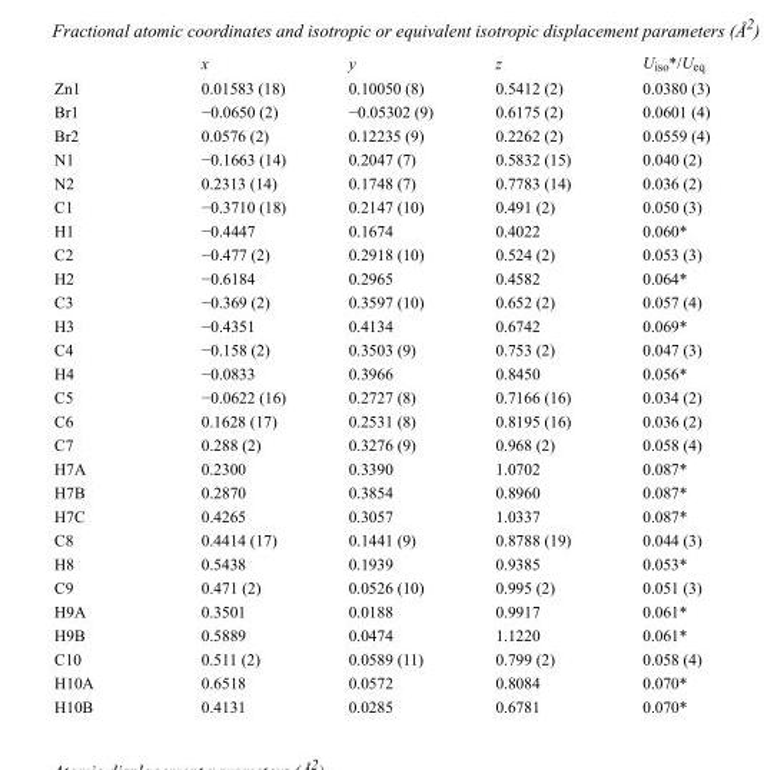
<table><thead><tr><td></td><td>x</td><td>y</td><td>z</td><td>U<sub>iso</sub>*/U<sub>eq</sub></td></tr></thead><tbody><tr><td>Zn1</td><td>0.01583 (18)</td><td>0.10050 (8)</td><td>0.5412 (2)</td><td>0.0380 (3)</td></tr><tr><td>Br1</td><td>−0.0650 (2)</td><td>−0.05302 (9)</td><td>0.6175 (2)</td><td>0.0601 (4)</td></tr><tr><td>Br2</td><td>0.0576 (2)</td><td>0.12235 (9)</td><td>0.2262 (2)</td><td>0.0559 (4)</td></tr><tr><td>N1</td><td>−0.1663 (14)</td><td>0.2047 (7)</td><td>0.5832 (15)</td><td>0.040 (2)</td></tr><tr><td>N2</td><td>0.2313 (14)</td><td>0.1748 (7)</td><td>0.7783 (14)</td><td>0.036 (2)</td></tr><tr><td>C1</td><td>−0.3710 (18)</td><td>0.2147 (10)</td><td>0.491 (2)</td><td>0.050 (3)</td></tr><tr><td>H1</td><td>−0.4447</td><td>0.1674</td><td>0.4022</td><td>0.060*</td></tr><tr><td>C2</td><td>−0.477 (2)</td><td>0.2918 (10)</td><td>0.524 (2)</td><td>0.053 (3)</td></tr><tr><td>H2</td><td>−0.6184</td><td>0.2965</td><td>0.4582</td><td>0.064*</td></tr><tr><td>C3</td><td>−0.369 (2)</td><td>0.3597 (10)</td><td>0.652 (2)</td><td>0.057 (4)</td></tr><tr><td>H3</td><td>−0.4351</td><td>0.4134</td><td>0.6742</td><td>0.069*</td></tr><tr><td>C4</td><td>−0.158 (2)</td><td>0.3503 (9)</td><td>0.753 (2)</td><td>0.047 (3)</td></tr><tr><td>H4</td><td>−0.0833</td><td>0.3966</td><td>0.8450</td><td>0.056*</td></tr><tr><td>C5</td><td>−0.0622 (16)</td><td>0.2727 (8)</td><td>0.7166 (16)</td><td>0.034 (2)</td></tr><tr><td>C6</td><td>0.1628 (17)</td><td>0.2531 (8)</td><td>0.8195 (16)</td><td>0.036 (2)</td></tr><tr><td>C7</td><td>0.288 (2)</td><td>0.3276 (9)</td><td>0.968 (2)</td><td>0.058 (4)</td></tr><tr><td>H7A</td><td>0.2300</td><td>0.3390</td><td>1.0702</td><td>0.087*</td></tr><tr><td>H7B</td><td>0.2870</td><td>0.3854</td><td>0.8960</td><td>0.087*</td></tr><tr><td>H7C</td><td>0.4265</td><td>0.3057</td><td>1.0337</td><td>0.087*</td></tr><tr><td>C8</td><td>0.4414 (17)</td><td>0.1441 (9)</td><td>0.8788 (19)</td><td>0.044 (3)</td></tr><tr><td>H8</td><td>0.5438</td><td>0.1939</td><td>0.9385</td><td>0.053*</td></tr><tr><td>C9</td><td>0.471 (2)</td><td>0.0526 (10)</td><td>0.995 (2)</td><td>0.051 (3)</td></tr><tr><td>H9A</td><td>0.3501</td><td>0.0188</td><td>0.9917</td><td>0.061*</td></tr><tr><td>H9B</td><td>0.5889</td><td>0.0474</td><td>1.1220</td><td>0.061*</td></tr><tr><td>C10</td><td>0.511 (2)</td><td>0.0589 (11)</td><td>0.799 (2)</td><td>0.058 (4)</td></tr><tr><td>H10A</td><td>0.6518</td><td>0.0572</td><td>0.8084</td><td>0.070*</td></tr><tr><td>H10B</td><td>0.4131</td><td>0.0285</td><td>0.6781</td><td>0.070*</td></tr></tbody></table>